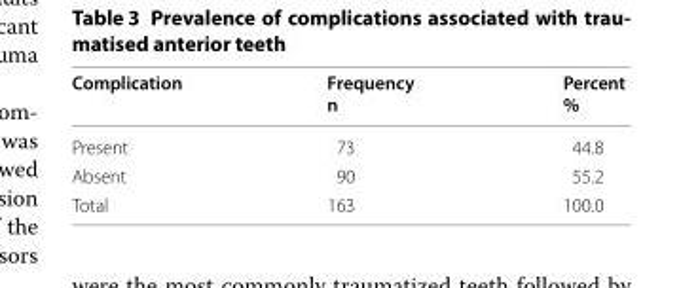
<table><thead><tr><td>Complication</td><td>Frequency n</td><td>Percent %</td></tr></thead><tbody><tr><td>Present</td><td>73</td><td>44.8</td></tr><tr><td>Absent</td><td>90</td><td>55.2</td></tr><tr><td>Total</td><td>163</td><td>100.0</td></tr></tbody></table>